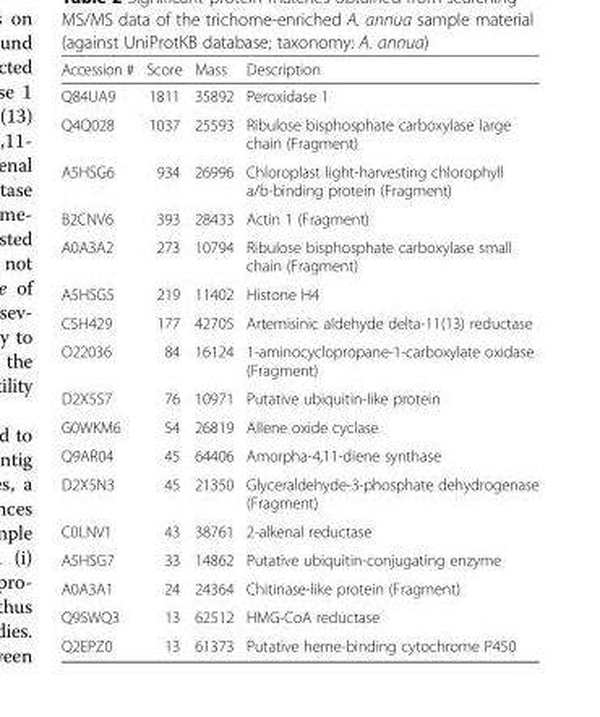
<table><thead><tr><td>Accession #</td><td>Score</td><td>Mass</td><td>Description</td></tr></thead><tbody><tr><td>Q84UA9</td><td>1811</td><td>35892</td><td>Peroxidase 1</td></tr><tr><td>Q4Q028</td><td>1037</td><td>25593</td><td>Ribulose bisphosphate carboxylase large chain (Fragment)</td></tr><tr><td>A5HSG6</td><td>934</td><td>26996</td><td>Chloroplast light-harvesting chlorophyll a/b-binding protein (Fragment)</td></tr><tr><td>B2CNV6</td><td>393</td><td>28433</td><td>Actin 1 (Fragment)</td></tr><tr><td>A0A3A2</td><td>273</td><td>10794</td><td>Ribulose bisphosphate carboxylase small chain (Fragment)</td></tr><tr><td>A5HSG5</td><td>219</td><td>11402</td><td>Histone H4</td></tr><tr><td>C5H429</td><td>177</td><td>42705</td><td>Artemisinic aldehyde delta-11(13) reductase</td></tr><tr><td>O22036</td><td>84</td><td>16124</td><td>1-aminocyclopropane-1-carboxylate oxidase (Fragment)</td></tr><tr><td>D2X5S7</td><td>76</td><td>10971</td><td>Putative ubiquitin-like protein</td></tr><tr><td>G0WKM6</td><td>54</td><td>26819</td><td>Allene oxide cyclase</td></tr><tr><td>Q9AR04</td><td>45</td><td>64406</td><td>Amorpha-4,11-diene synthase</td></tr><tr><td>D2X5N3</td><td>45</td><td>21350</td><td>Glyceraldehyde-3-phosphate dehydrogenase (Fragment)</td></tr><tr><td>C0LNV1</td><td>43</td><td>38761</td><td>2-alkenal reductase</td></tr><tr><td>A5HSG7</td><td>33</td><td>14862</td><td>Putative ubiquitin-conjugating enzyme</td></tr><tr><td>A0A3A1</td><td>24</td><td>24364</td><td>Chitinase-like protein (Fragment)</td></tr><tr><td>Q9SWQ3</td><td>13</td><td>62512</td><td>HMG-CoA reductase</td></tr><tr><td>Q2EPZ0</td><td>13</td><td>61373</td><td>Putative heme-binding cytochrome P450</td></tr></tbody></table>